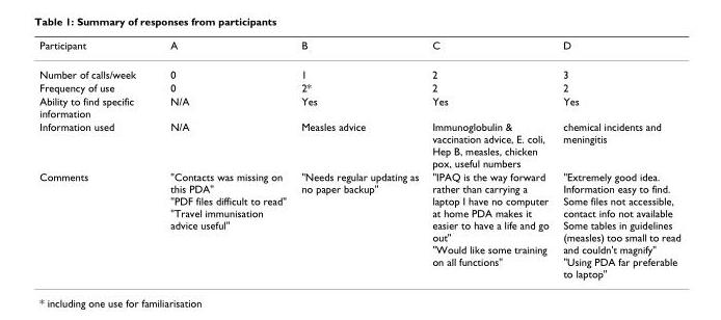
<table><thead><tr><td>Participant</td><td>A</td><td>B</td><td>C</td><td>D</td></tr></thead><tbody><tr><td>Number of calls/week</td><td>0</td><td>1</td><td>2</td><td>3</td></tr><tr><td>Frequency of use</td><td>0</td><td>2*</td><td>2</td><td>2</td></tr><tr><td>Ability to find specific information</td><td>N/A</td><td>Yes</td><td>Yes</td><td>Yes</td></tr><tr><td>Information used</td><td>N/A</td><td>Measles advice</td><td>Immunoglobulin &amp; vaccination advice, E. coli, Hep B, measles, chicken pox, useful numbers</td><td>chemical incidents and meningitis</td></tr><tr><td>Comments</td><td>&quot;Contacts was missing on this PDA&quot; &quot;PDF files difficult to read&quot; &quot;Travel immunisation advice useful&quot;</td><td>&quot;Needs regular updating as no paper backup&quot;</td><td>&quot;IPAQ is the way forward rather than carrying a laptop I have no computer at home PDA makes it easier to have a life and go out&quot; &quot;Would like some training on all functions&quot;</td><td>&quot;Extremely good idea. Information easy to find. Some files not accessible, contact info not available Some tables in guidelines (measles) too small to read and couldn&#x27;t magnify&quot; &quot;Using PDA far preferable to laptop&quot;</td></tr></tbody></table>